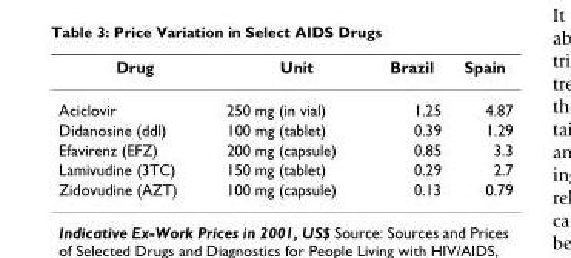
<table><thead><tr><td>Drug</td><td>Unit</td><td>Brazil</td><td>Spain</td></tr></thead><tbody><tr><td>Aciclovir</td><td>250 mg (in vial)</td><td>1.25</td><td>4.87</td></tr><tr><td>Didanosine (ddl)</td><td>100 mg (tablet)</td><td>0.39</td><td>1.29</td></tr><tr><td>Efavirenz (EFZ)</td><td>200 mg (capsule)</td><td>0.85</td><td>3.3</td></tr><tr><td>Lamivudine (3TC)</td><td>150 mg (tablet)</td><td>0.29</td><td>2.7</td></tr><tr><td>Zidovudine (AZT)</td><td>100 mg (capsule)</td><td>0.13</td><td>0.79</td></tr></tbody></table>